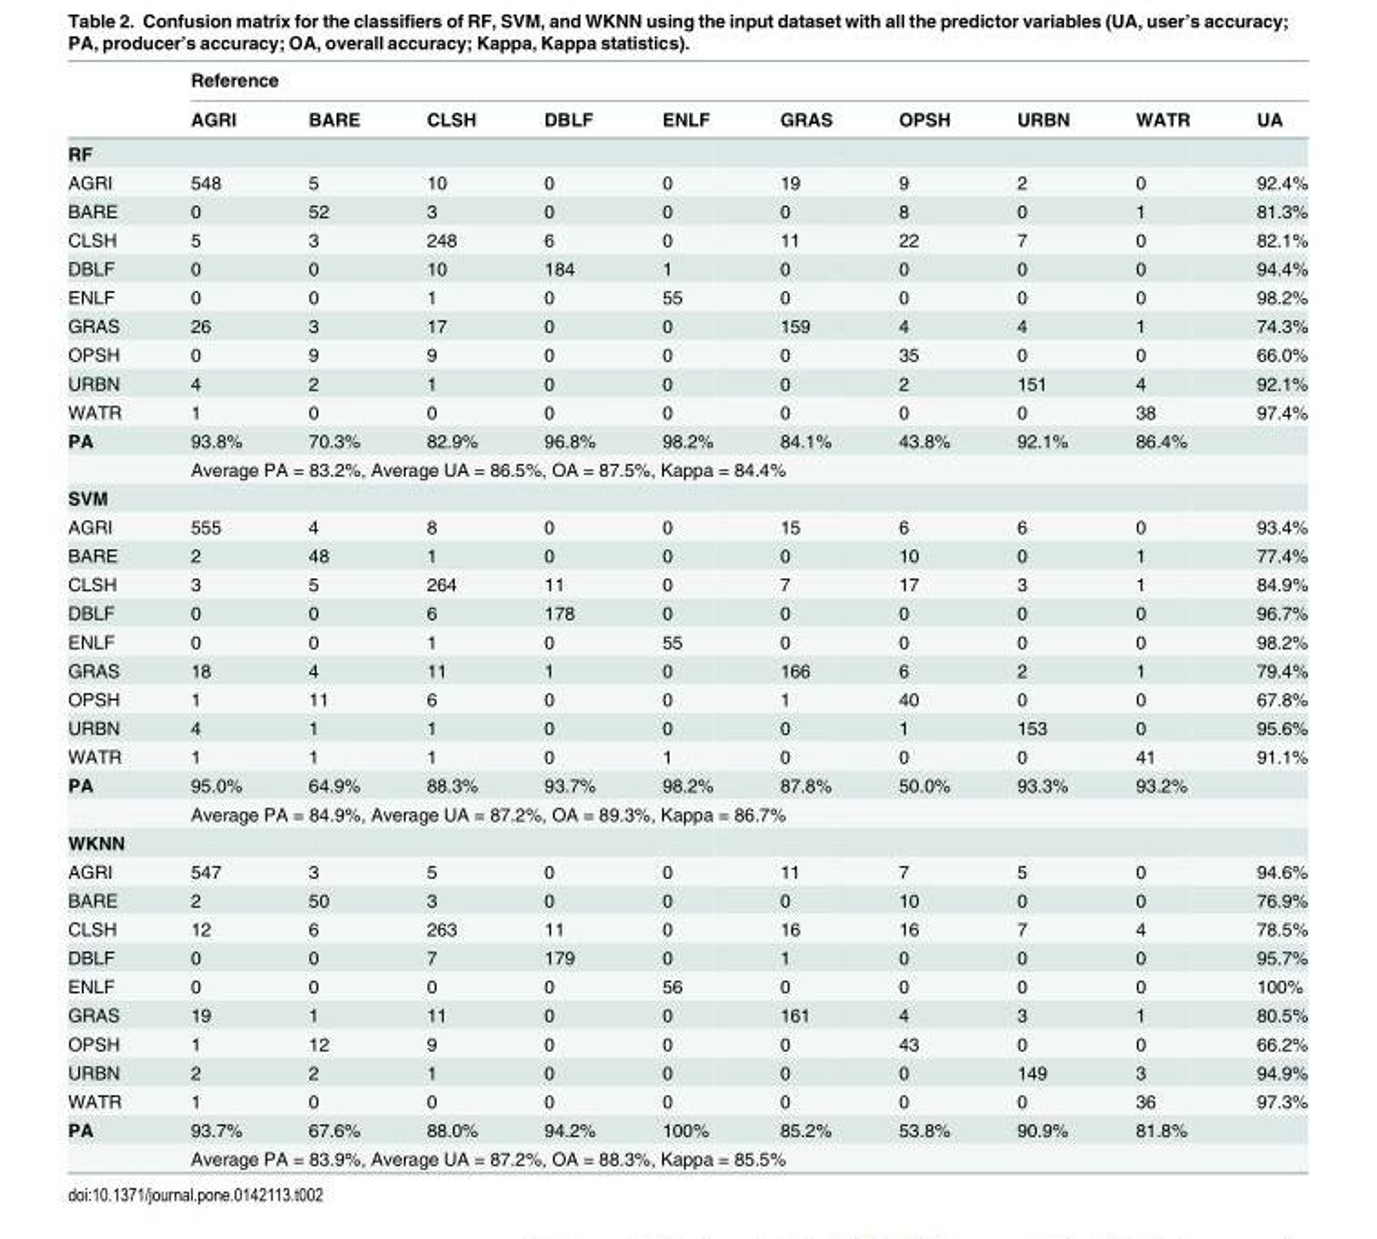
<table><thead><tr><td rowspan="2"></td><td colspan="10">Reference</td></tr><tr><td>AGRI</td><td>BARE</td><td>CLSH</td><td>DBLF</td><td>ENLF</td><td>GRAS</td><td>OPSH</td><td>URBN</td><td>WATR</td><td>UA</td></tr></thead><tbody><tr><td colspan="11">RF</td></tr><tr><td>AGRI</td><td>548</td><td>5</td><td>10</td><td>0</td><td>0</td><td>19</td><td>9</td><td>2</td><td>0</td><td>92.4%</td></tr><tr><td>BARE</td><td>0</td><td>52</td><td>3</td><td>0</td><td>0</td><td>0</td><td>8</td><td>0</td><td>1</td><td>81.3%</td></tr><tr><td>CLSH</td><td>5</td><td>3</td><td>248</td><td>6</td><td>0</td><td>11</td><td>22</td><td>7</td><td>0</td><td>82.1%</td></tr><tr><td>DBLF</td><td>0</td><td>0</td><td>10</td><td>184</td><td>1</td><td>0</td><td>0</td><td>0</td><td>0</td><td>94.4%</td></tr><tr><td>ENLF</td><td>0</td><td>0</td><td>1</td><td>0</td><td>55</td><td>0</td><td>0</td><td>0</td><td>0</td><td>98.2%</td></tr><tr><td>GRAS</td><td>26</td><td>3</td><td>17</td><td>0</td><td>0</td><td>159</td><td>4</td><td>4</td><td>1</td><td>74.3%</td></tr><tr><td>OPSH</td><td>0</td><td>9</td><td>9</td><td>0</td><td>0</td><td>0</td><td>35</td><td>0</td><td>0</td><td>66.0%</td></tr><tr><td>URBN</td><td>4</td><td>2</td><td>1</td><td>0</td><td>0</td><td>0</td><td>2</td><td>151</td><td>4</td><td>92.1%</td></tr><tr><td>WATR</td><td>1</td><td>0</td><td>0</td><td>0</td><td>0</td><td>0</td><td>0</td><td>0</td><td>38</td><td>97.4%</td></tr><tr><td rowspan="2">PA</td><td>93.8%</td><td>70.3%</td><td>82.9%</td><td>96.8%</td><td>98.2%</td><td>84.1%</td><td>43.8%</td><td>92.1%</td><td>86.4%</td><td></td></tr><tr><td colspan="10">Average PA = 83.2%, Average UA = 86.5%, OA = 87.5%, Kappa = 84.4%</td></tr><tr><td colspan="11">SVM</td></tr><tr><td>AGRI</td><td>555</td><td>4</td><td>8</td><td>0</td><td>0</td><td>15</td><td>6</td><td>6</td><td>0</td><td>93.4%</td></tr><tr><td>BARE</td><td>2</td><td>48</td><td>1</td><td>0</td><td>0</td><td>0</td><td>10</td><td>0</td><td>1</td><td>77.4%</td></tr><tr><td>CLSH</td><td>3</td><td>5</td><td>264</td><td>11</td><td>0</td><td>7</td><td>17</td><td>3</td><td>1</td><td>84.9%</td></tr><tr><td>DBLF</td><td>0</td><td>0</td><td>6</td><td>178</td><td>0</td><td>0</td><td>0</td><td>0</td><td>0</td><td>96.7%</td></tr><tr><td>ENLF</td><td>0</td><td>0</td><td>1</td><td>0</td><td>55</td><td>0</td><td>0</td><td>0</td><td>0</td><td>98.2%</td></tr><tr><td>GRAS</td><td>18</td><td>4</td><td>11</td><td>1</td><td>0</td><td>166</td><td>6</td><td>2</td><td>1</td><td>79.4%</td></tr><tr><td>OPSH</td><td>1</td><td>11</td><td>6</td><td>0</td><td>0</td><td>1</td><td>40</td><td>0</td><td>0</td><td>67.8%</td></tr><tr><td>URBN</td><td>4</td><td>1</td><td>1</td><td>0</td><td>0</td><td>0</td><td>1</td><td>153</td><td>0</td><td>95.6%</td></tr><tr><td>WATR</td><td>1</td><td>1</td><td>1</td><td>0</td><td>1</td><td>0</td><td>0</td><td>0</td><td>41</td><td>91.1%</td></tr><tr><td rowspan="2">PA</td><td>95.0%</td><td>64.9%</td><td>88.3%</td><td>93.7%</td><td>98.2%</td><td>87.8%</td><td>50.0%</td><td>93.3%</td><td>93.2%</td><td></td></tr><tr><td colspan="10">Average PA = 84.9%, Average UA = 87.2%, OA = 89.3%, Kappa = 86.7%</td></tr><tr><td colspan="11">WKNN</td></tr><tr><td>AGRI</td><td>547</td><td>3</td><td>5</td><td>0</td><td>0</td><td>11</td><td>7</td><td>5</td><td>0</td><td>94.6%</td></tr><tr><td>BARE</td><td>2</td><td>50</td><td>3</td><td>0</td><td>0</td><td>0</td><td>10</td><td>0</td><td>0</td><td>76.9%</td></tr><tr><td>CLSH</td><td>12</td><td>6</td><td>263</td><td>11</td><td>0</td><td>16</td><td>16</td><td>7</td><td>4</td><td>78.5%</td></tr><tr><td>DBLF</td><td>0</td><td>0</td><td>7</td><td>179</td><td>0</td><td>1</td><td>0</td><td>0</td><td>0</td><td>95.7%</td></tr><tr><td>ENLF</td><td>0</td><td>0</td><td>0</td><td>0</td><td>56</td><td>0</td><td>0</td><td>0</td><td>0</td><td>100%</td></tr><tr><td>GRAS</td><td>19</td><td>1</td><td>11</td><td>0</td><td>0</td><td>161</td><td>4</td><td>3</td><td>1</td><td>80.5%</td></tr><tr><td>OPSH</td><td>1</td><td>12</td><td>9</td><td>0</td><td>0</td><td>0</td><td>43</td><td>0</td><td>0</td><td>66.2%</td></tr><tr><td>URBN</td><td>2</td><td>2</td><td>1</td><td>0</td><td>0</td><td>0</td><td>0</td><td>149</td><td>3</td><td>94.9%</td></tr><tr><td>WATR</td><td>1</td><td>0</td><td>0</td><td>0</td><td>0</td><td>0</td><td>0</td><td>0</td><td>36</td><td>97.3%</td></tr><tr><td rowspan="2">PA</td><td>93.7%</td><td>67.6%</td><td>88.0%</td><td>94.2%</td><td>100%</td><td>85.2%</td><td>53.8%</td><td>90.9%</td><td>81.8%</td><td></td></tr><tr><td colspan="10">Average PA = 83.9%, Average UA = 87.2%, OA = 88.3%, Kappa = 85.5%</td></tr></tbody></table>